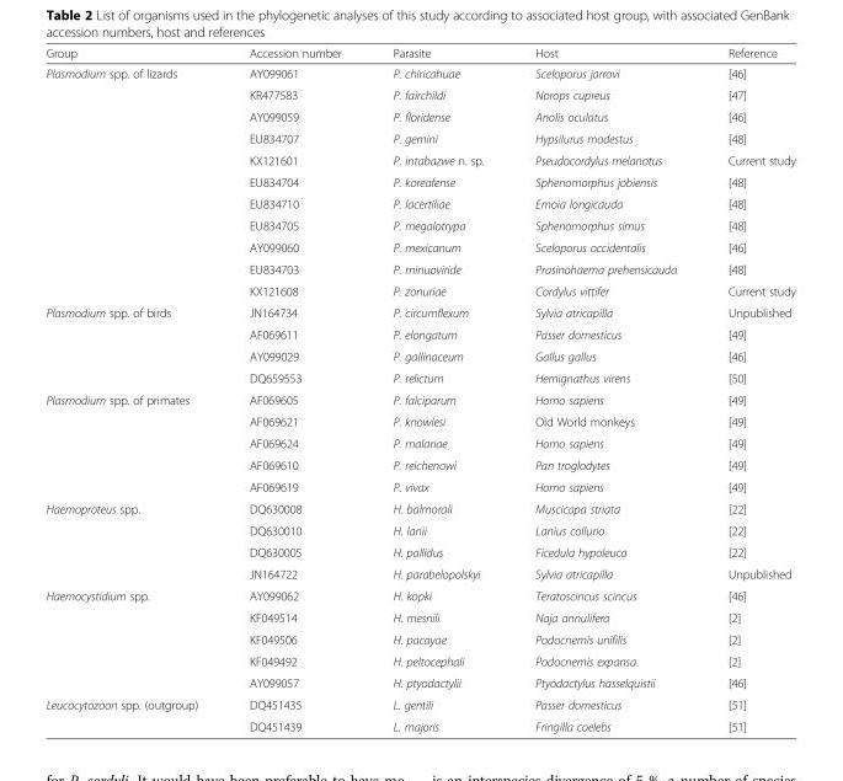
<table><thead><tr><td>Group</td><td>Accession number</td><td>Parasite</td><td>Host</td><td>Reference</td></tr></thead><tbody><tr><td rowspan="11">Plasmodium spp. of lizards</td><td>AY099061</td><td>P. chiricahuae</td><td>Sceloporus jarrovi</td><td>[46]</td></tr><tr><td>KR477583</td><td>P. fairchildi</td><td>Norops cupreus</td><td>[47]</td></tr><tr><td>AY099059</td><td>P. floridense</td><td>Anolis oculatus</td><td>[46]</td></tr><tr><td>EU834707</td><td>P. gemini</td><td>Hypsilurus modestus</td><td>[48]</td></tr><tr><td>KX121601</td><td>P. intabazwe n. sp.</td><td>Pseudocordylus melanotus</td><td>Current study</td></tr><tr><td>EU834704</td><td>P. koreafense</td><td>Sphenomorphus jobiensis</td><td>[48]</td></tr><tr><td>EU834710</td><td>P. lacertiliae</td><td>Emoia longicauda</td><td>[48]</td></tr><tr><td>EU834705</td><td>P. megalotrypa</td><td>Sphenomorphus simus</td><td>[48]</td></tr><tr><td>AY099060</td><td>P. mexicanum</td><td>Sceloporus occidentalis</td><td>[46]</td></tr><tr><td>EU834703</td><td>P. minuoviride</td><td>Prasinohaema prehensicauda</td><td>[48]</td></tr><tr><td>KX121608</td><td>P. zonuriae</td><td>Cordylus vittifer</td><td>Current study</td></tr><tr><td rowspan="4">Plasmodium spp. of birds</td><td>JN164734</td><td>P. circumflexum</td><td>Sylvia atricapilla</td><td>Unpublished</td></tr><tr><td>AF069611</td><td>P. elongatum</td><td>Passer domesticus</td><td>[49]</td></tr><tr><td>AY099029</td><td>P. gallinaceum</td><td>Gallus gallus</td><td>[46]</td></tr><tr><td>DQ659553</td><td>P. relictum</td><td>Hemignathus virens</td><td>[50]</td></tr><tr><td rowspan="5">Plasmodium spp. of primates</td><td>AF069605</td><td>P. falciparum</td><td>Homo sapiens</td><td>[49]</td></tr><tr><td>AF069621</td><td>P. knowlesi</td><td>Old World monkeys</td><td>[49]</td></tr><tr><td>AF069624</td><td>P. malariae</td><td>Homo sapiens</td><td>[49]</td></tr><tr><td>AF069610</td><td>P. reichenowi</td><td>Pan troglodytes</td><td>[49]</td></tr><tr><td>AF069619</td><td>P. vivax</td><td>Homo sapiens</td><td>[49]</td></tr><tr><td rowspan="4">Haemoproteus spp.</td><td>DQ630008</td><td>H. balmorali</td><td>Muscicapa striata</td><td>[22]</td></tr><tr><td>DQ630010</td><td>H. lanii</td><td>Lanius collurio</td><td>[22]</td></tr><tr><td>DQ630005</td><td>H. pallidus</td><td>Ficedula hypoleuca</td><td>[22]</td></tr><tr><td>JN164722</td><td>H. parabelopolskyi</td><td>Sylvia atricapilla</td><td>Unpublished</td></tr><tr><td rowspan="5">Haemocystidium spp.</td><td>AY099062</td><td>H. kopki</td><td>Teratoscincus scincus</td><td>[46]</td></tr><tr><td>KF049514</td><td>H. mesnili</td><td>Naja annulifera</td><td>[2]</td></tr><tr><td>KF049506</td><td>H. pacayae</td><td>Podocnemis unifilis</td><td>[2]</td></tr><tr><td>KF049492</td><td>H. peltocephali</td><td>Podocnemis expansa</td><td>[2]</td></tr><tr><td>AY099057</td><td>H. ptyodactylii</td><td>Ptyodactylus hasselquistii</td><td>[46]</td></tr><tr><td rowspan="2">Leucocytozoon spp. (outgroup)</td><td>DQ451435</td><td>L. gentili</td><td>Passer domesticus</td><td>[51]</td></tr><tr><td>DQ451439</td><td>L. majoris</td><td>Fringilla coelebs</td><td>[51]</td></tr></tbody></table>